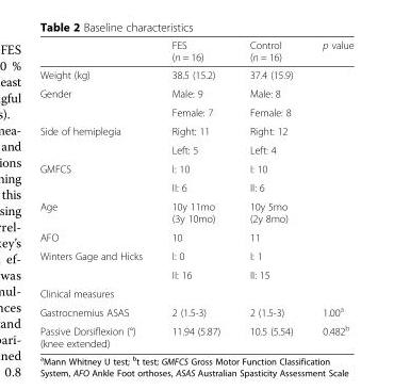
<table><thead><tr><td></td><td>FES (n = 16)</td><td>Control (n = 16)</td><td>p value</td></tr></thead><tbody><tr><td>Weight (kg)</td><td>38.5 (15.2)</td><td>37.4 (15.9)</td><td></td></tr><tr><td rowspan="2">Gender</td><td>Male: 9</td><td>Male: 8</td><td rowspan="2"></td></tr><tr><td>Female: 7</td><td>Female: 8</td></tr><tr><td rowspan="2">Side of hemiplegia</td><td>Right: 11</td><td>Right: 12</td><td rowspan="2"></td></tr><tr><td>Left: 5</td><td>Left: 4</td></tr><tr><td rowspan="2">GMFCS</td><td>I: 10</td><td>I: 10</td><td rowspan="2"></td></tr><tr><td>II: 6</td><td>II: 6</td></tr><tr><td>Age</td><td>10y 11mo (3y 10mo)</td><td>10y 5mo (2y 8mo)</td><td></td></tr><tr><td>AFO</td><td>10</td><td>11</td><td></td></tr><tr><td rowspan="2">Winters Gage and Hicks</td><td>I: 0</td><td>I: 1</td><td rowspan="2"></td></tr><tr><td>II: 16</td><td>II: 15</td></tr><tr><td colspan="4">Clinical measures</td></tr><tr><td>Gastrocnemius ASAS</td><td>2 (1.5-3)</td><td>2 (1.5-3)</td><td>1.00<sup>a</sup></td></tr><tr><td>Passive Dorsiflexion (°) (knee extended)</td><td>11.94 (5.87)</td><td>10.5 (5.54)</td><td>0.482<sup>b</sup></td></tr></tbody></table>